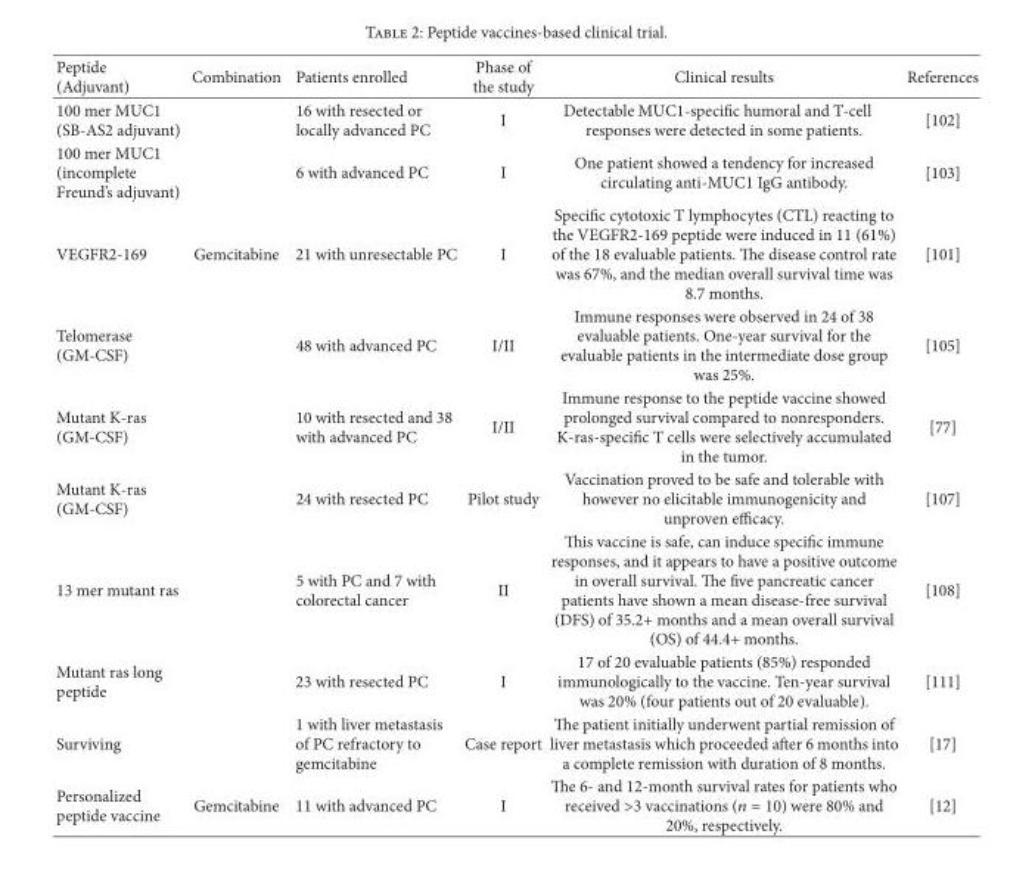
<table><thead><tr><td>Peptide (Adjuvant)</td><td>Combination</td><td>Patients enrolled</td><td>Phase of the study</td><td>Clinical results</td><td>References</td></tr></thead><tbody><tr><td>100 mer MUC1 (SB-AS2 adjuvant)</td><td></td><td>16 with resected or locally advanced PC</td><td>I</td><td>Detectable MUC1-speci�c humoral and T-cell responses were detected in some patients.</td><td>[102]</td></tr><tr><td>100 mer MUC1 (incomplete Freund’s adjuvant)</td><td></td><td>6 with advanced PC</td><td>I</td><td>One patient showed a tendency for increased circulating anti-MUC1 IgG antibody.</td><td>[103]</td></tr><tr><td>VEGFR2-169</td><td>Gemcitabine</td><td>21 with unresectable PC</td><td>I</td><td>Speci�c cytoto�ic T lymphocytes (CTL) reacting to the VEGFR2-169 peptide were induced in 11 (61%) of the 18 evaluable patients. e disease control rate was 67%, and the median overall survival time was 8.7 months.</td><td>[101]</td></tr><tr><td>Telomerase (GM-CSF)</td><td></td><td>48 with advanced PC</td><td>I/II</td><td>Immune responses were observed in 24 of 38 evaluable patients. One-year survival for the evaluable patients in the intermediate dose group was 25%.</td><td>[105]</td></tr><tr><td>Mutant K-ras (GM-CSF)</td><td></td><td>10 with resected and 38 with advanced PC</td><td>I/II</td><td>Immune response to the peptide vaccine showed prolonged survival compared to nonresponders. K-ras-speci�c T cells were selectively accumulated in the tumor.</td><td>[77]</td></tr><tr><td>Mutant K-ras (GM-CSF)</td><td></td><td>24 with resected PC</td><td>Pilot study</td><td>Vaccination proved to be safe and tolerable with however no elicitable immunogenicity and unproven efficacy.</td><td>[107]</td></tr><tr><td>13 mer mutant ras</td><td></td><td>5 with PC and 7 with colorectal cancer</td><td>II</td><td>is vaccine is safe, can induce speci�c immune responses, and it appears to have a positive outcome in overall survival. e �ve pancreatic cancer patients have shown a mean disease-free survival (DFS) of 35.2+ months and a mean overall survival (OS) of 44.4+ months.</td><td>[108]</td></tr><tr><td>Mutant ras long peptide</td><td></td><td>23 with resected PC</td><td>I</td><td>17 of 20 evaluable patients (85%) responded immunologically to the vaccine. Ten-year survival was 20% (four patients out of 20 evaluable).</td><td>[111]</td></tr><tr><td>Surviving</td><td></td><td>1 with liver metastasis of PC refractory to gemcitabine</td><td>Case report</td><td>e patient initially underwent partial remission of liver metastasis which proceeded aer 6 months into a complete remission with duration of 8 months.</td><td>[17]</td></tr><tr><td>Personalized peptide vaccine</td><td>Gemcitabine</td><td>11 with advanced PC</td><td>I</td><td>e 6- and 12-month survival rates for patients who received &gt;3 vaccinations (𝑛𝑛 𝑛 𝑛𝑛) were 80% and 20%, respectively.</td><td>[12]</td></tr></tbody></table>